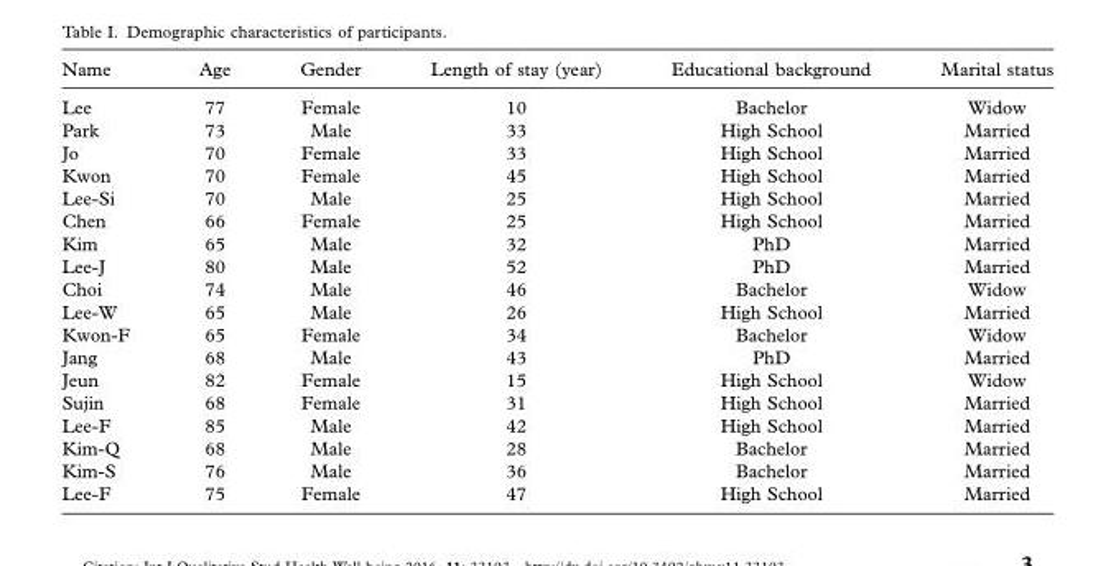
<table><thead><tr><td>Name</td><td>Age</td><td>Gender</td><td>Length of stay (year)</td><td>Educational background</td><td>Marital status</td></tr></thead><tbody><tr><td>Lee</td><td>77</td><td>Female</td><td>10</td><td>Bachelor</td><td>Widow</td></tr><tr><td>Park</td><td>73</td><td>Male</td><td>33</td><td>High School</td><td>Married</td></tr><tr><td>Jo</td><td>70</td><td>Female</td><td>33</td><td>High School</td><td>Married</td></tr><tr><td>Kwon</td><td>70</td><td>Female</td><td>45</td><td>High School</td><td>Married</td></tr><tr><td>Lee-Si</td><td>70</td><td>Male</td><td>25</td><td>High School</td><td>Married</td></tr><tr><td>Chen</td><td>66</td><td>Female</td><td>25</td><td>High School</td><td>Married</td></tr><tr><td>Kim</td><td>65</td><td>Male</td><td>32</td><td>PhD</td><td>Married</td></tr><tr><td>Lee-J</td><td>80</td><td>Male</td><td>52</td><td>PhD</td><td>Married</td></tr><tr><td>Choi</td><td>74</td><td>Male</td><td>46</td><td>Bachelor</td><td>Widow</td></tr><tr><td>Lee-W</td><td>65</td><td>Male</td><td>26</td><td>High School</td><td>Married</td></tr><tr><td>Kwon-F</td><td>65</td><td>Female</td><td>34</td><td>Bachelor</td><td>Widow</td></tr><tr><td>Jang</td><td>68</td><td>Male</td><td>43</td><td>PhD</td><td>Married</td></tr><tr><td>Jeun</td><td>82</td><td>Female</td><td>15</td><td>High School</td><td>Widow</td></tr><tr><td>Sujin</td><td>68</td><td>Female</td><td>31</td><td>High School</td><td>Married</td></tr><tr><td>Lee-F</td><td>85</td><td>Male</td><td>42</td><td>High School</td><td>Married</td></tr><tr><td>Kim-Q</td><td>68</td><td>Male</td><td>28</td><td>Bachelor</td><td>Married</td></tr><tr><td>Kim-S</td><td>76</td><td>Male</td><td>36</td><td>Bachelor</td><td>Married</td></tr><tr><td>Lee-F</td><td>75</td><td>Female</td><td>47</td><td>High School</td><td>Married</td></tr></tbody></table>